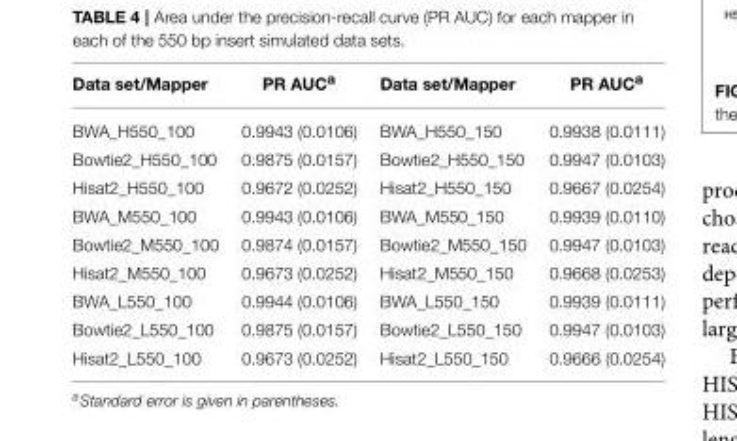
<table><thead><tr><td>Data set/Mapper</td><td>PR AUC<sup>a</sup></td><td>Data set/Mapper</td><td>PR AUC<sup>a</sup></td></tr></thead><tbody><tr><td>BWA_H550_100</td><td>0.9943 (0.0106)</td><td>BWA_H550_150</td><td>0.9938 (0.0111)</td></tr><tr><td>Bowtie2_H550_100</td><td>0.9875 (0.0157)</td><td>Bowtie2_H550_150</td><td>0.9947 (0.0103)</td></tr><tr><td>Hisat2_H550_100</td><td>0.9672 (0.0252)</td><td>Hisat2_H550_150</td><td>0.9667 (0.0254)</td></tr><tr><td>BWA_M550_100</td><td>0.9943 (0.0106)</td><td>BWA_M550_150</td><td>0.9939 (0.0110)</td></tr><tr><td>Bowtie2_M550_100</td><td>0.9874 (0.0157)</td><td>Bowtie2_M550_150</td><td>0.9947 (0.0103)</td></tr><tr><td>Hisat2_M550_100</td><td>0.9673 (0.0252)</td><td>Hisat2_M550_150</td><td>0.9668 (0.0253)</td></tr><tr><td>BWA_L550_100</td><td>0.9944 (0.0106)</td><td>BWA_L550_150</td><td>0.9939 (0.0111)</td></tr><tr><td>Bowtie2_L550_100</td><td>0.9875 (0.0157)</td><td>Bowtie2_L550_150</td><td>0.9947 (0.0103)</td></tr><tr><td>Hisat2_L550_100</td><td>0.9673 (0.0252)</td><td>Hisat2_L550_150</td><td>0.9666 (0.0254)</td></tr></tbody></table>